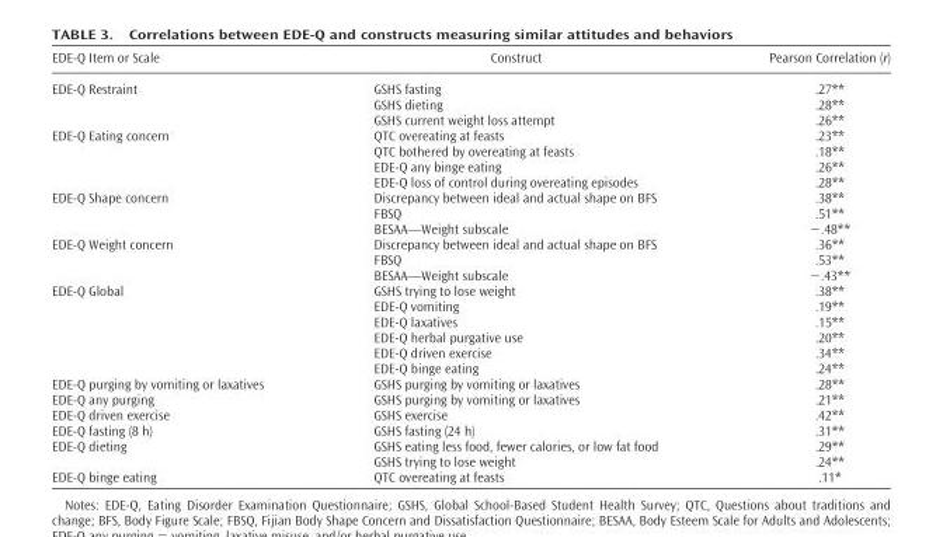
<table><thead><tr><td>EDE-Q Item or Scale</td><td>Construct</td><td>Pearson Correlation (r)</td></tr></thead><tbody><tr><td rowspan="3">EDE-Q Restraint</td><td>GSHS fasting</td><td>.27**</td></tr><tr><td>GSHS dieting</td><td>.28**</td></tr><tr><td>GSHS current weight loss attempt</td><td>.26**</td></tr><tr><td rowspan="4">EDE-Q Eating concern</td><td>QTC overeating at feasts</td><td>.23**</td></tr><tr><td>QTC bothered by overeating at feasts</td><td>.18**</td></tr><tr><td>EDE-Q any binge eating</td><td>.26**</td></tr><tr><td>EDE-Q loss of control during overeating episodes</td><td>.28**</td></tr><tr><td rowspan="3">EDE-Q Shape concern</td><td>Discrepancy between ideal and actual shape on BFS</td><td>.38**</td></tr><tr><td>FBSQ</td><td>.51**</td></tr><tr><td>BESAA—Weight subscale</td><td>−.48**</td></tr><tr><td rowspan="3">EDE-Q Weight concern</td><td>Discrepancy between ideal and actual shape on BFS</td><td>.36**</td></tr><tr><td>FBSQ</td><td>.53**</td></tr><tr><td>BESAA—Weight subscale</td><td>−.43**</td></tr><tr><td rowspan="6">EDE-Q Global</td><td>GSHS trying to lose weight</td><td>.38**</td></tr><tr><td>EDE-Q vomiting</td><td>.19**</td></tr><tr><td>EDE-Q laxatives</td><td>.15**</td></tr><tr><td>EDE-Q herbal purgative use</td><td>.20**</td></tr><tr><td>EDE-Q driven exercise</td><td>.34**</td></tr><tr><td>EDE-Q binge eating</td><td>.24**</td></tr><tr><td>EDE-Q purging by vomiting or laxatives</td><td>GSHS purging by vomiting or laxatives</td><td>.28**</td></tr><tr><td>EDE-Q any purging</td><td>GSHS purging by vomiting or laxatives</td><td>.21**</td></tr><tr><td>EDE-Q driven exercise</td><td>GSHS exercise</td><td>.42**</td></tr><tr><td>EDE-Q fasting (8 h)</td><td>GSHS fasting (24 h)</td><td>.31**</td></tr><tr><td rowspan="2">EDE-Q dieting</td><td>GSHS eating less food, fewer calories, or low fat food</td><td>.29**</td></tr><tr><td>GSHS trying to lose weight</td><td>.24**</td></tr><tr><td>EDE-Q binge eating</td><td>QTC overeating at feasts</td><td>.11*</td></tr></tbody></table>